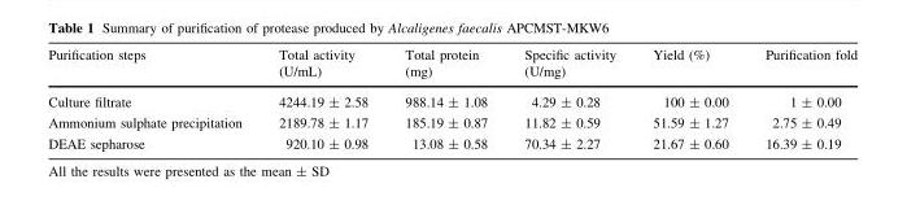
<table><thead><tr><td>Purification steps</td><td>Total activity (U/mL)</td><td>Total protein (mg)</td><td>Specific activity (U/mg)</td><td>Yield (%)</td><td>Purification fold</td></tr></thead><tbody><tr><td>Culture filtrate</td><td>4244.19 ± 2.58</td><td>988.14 ± 1.08</td><td>4.29 ± 0.28</td><td>100 ± 0.00</td><td>1 ± 0.00</td></tr><tr><td>Ammonium sulphate precipitation</td><td>2189.78 ± 1.17</td><td>185.19 ± 0.87</td><td>11.82 ± 0.59</td><td>51.59 ± 1.27</td><td>2.75 ± 0.49</td></tr><tr><td>DEAE sepharose</td><td>920.10 ± 0.98</td><td>13.08 ± 0.58</td><td>70.34 ± 2.27</td><td>21.67 ± 0.60</td><td>16.39 ± 0.19</td></tr></tbody></table>